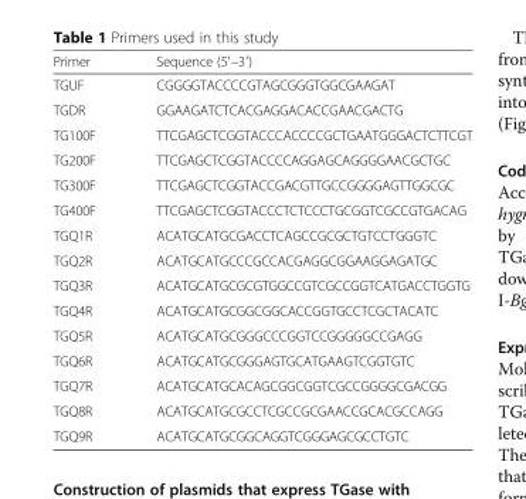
<table><thead><tr><td>Primer</td><td>Sequence (5′–3′)</td></tr></thead><tbody><tr><td>TGUF</td><td>CGGGGTACCCCGTAGCGGGTGGCGAAGAT</td></tr><tr><td>TGDR</td><td>GGAAGATCTCACGAGGACACCGAACGACTG</td></tr><tr><td>TG100F</td><td>TTCGAGCTCGGTACCCACCCCGCTGAATGGGACTCTTCGT</td></tr><tr><td>TG200F</td><td>TTCGAGCTCGGTACCCCAGGAGCAGGGGAACGCTGC</td></tr><tr><td>TG300F</td><td>TTCGAGCTCGGTACCGACGTTGCCGGGGAGTTGGCGC</td></tr><tr><td>TG400F</td><td>TTCGAGCTCGGTACCCTCTCCCTGCGGTCGCCGTGACAG</td></tr><tr><td>TGQ1R</td><td>ACATGCATGCGACCTCAGCCGCGCTGTCCTGGGTC</td></tr><tr><td>TGQ2R</td><td>ACATGCATGCCCGCCACGAGGCGGAAGGAGATGC</td></tr><tr><td>TGQ3R</td><td>ACATGCATGCGCGTGGCCGTCGCCGGTCATGACCTGGTG</td></tr><tr><td>TGQ4R</td><td>ACATGCATGCGGCGGCACCGGTGCCTCGCTACATC</td></tr><tr><td>TGQ5R</td><td>ACATGCATGCGGGCCCGGTCCGGGGGCCGAGG</td></tr><tr><td>TGQ6R</td><td>ACATGCATGCGGGAGTGCATGAAGTCGGTGTC</td></tr><tr><td>TGQ7R</td><td>ACATGCATGCACAGCGGCGGTCGCCGGGGCGACGG</td></tr><tr><td>TGQ8R</td><td>ACATGCATGCGCCTCGCCGCGAACCGCACGCCAGG</td></tr><tr><td>TGQ9R</td><td>ACATGCATGCGGCAGGTCGGGAGCGCCTGTC</td></tr></tbody></table>